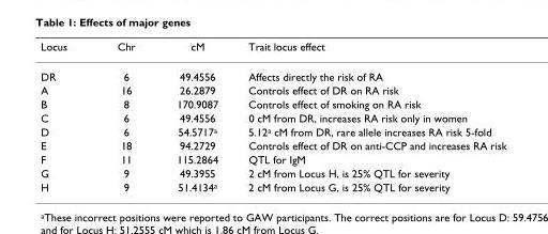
<table><thead><tr><td>Locus</td><td>Chr</td><td>cM</td><td>Trait locus effect</td></tr></thead><tbody><tr><td>DR</td><td>6</td><td>49.4556</td><td>Affects directly the risk of RA</td></tr><tr><td>A</td><td>16</td><td>26.2879</td><td>Controls effect of DR on RA risk</td></tr><tr><td>B</td><td>8</td><td>170.9087</td><td>Controls effect of smoking on RA risk</td></tr><tr><td>C</td><td>6</td><td>49.4556</td><td>0 cM from DR, increases RA risk only in women</td></tr><tr><td>D</td><td>6</td><td>54.5717<sup>a</sup></td><td>5.12<sup>a</sup> cM from DR, rare allele increases RA risk 5-fold</td></tr><tr><td>E</td><td>18</td><td>94.2729</td><td>Controls effect of DR on anti-CCP and increases RA risk</td></tr><tr><td>F</td><td>11</td><td>115.2864</td><td>QTL for IgM</td></tr><tr><td>G</td><td>9</td><td>49.3955</td><td>2 cM from Locus H, is 25% QTL for severity</td></tr><tr><td>H</td><td>9</td><td>51.4134<sup>a</sup></td><td>2 cM from Locus G, is 25% QTL for severity</td></tr></tbody></table>